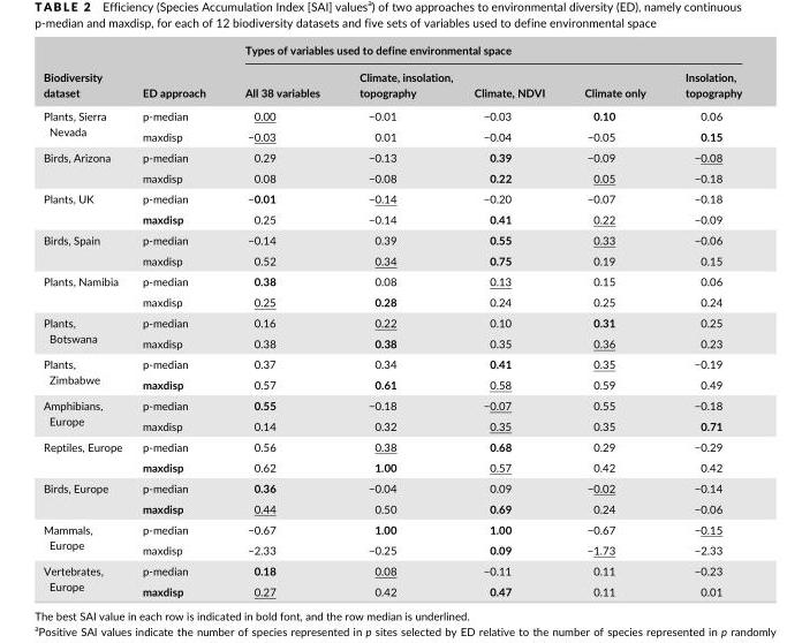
<table><thead><tr><td rowspan="2">Biodiversity dataset</td><td rowspan="2">ED approach</td><td colspan="5">Types of variables used to define environmental space</td></tr><tr><td>All 38 variables</td><td>Climate, insolation, topography</td><td>Climate, NDVI</td><td>Climate only</td><td>Insolation, topography</td></tr></thead><tbody><tr><td rowspan="2">Plants, Sierra Nevada</td><td>p- median</td><td>0.00</td><td>−0.01</td><td>−0.03</td><td>0.10</td><td>0.06</td></tr><tr><td>maxdisp</td><td>−0.03</td><td>0.01</td><td>−0.04</td><td>−0.05</td><td>0.15</td></tr><tr><td rowspan="2">Birds, Arizona</td><td>p- median</td><td>0.29</td><td>−0.13</td><td>0.39</td><td>−0.09</td><td>−0.08</td></tr><tr><td>maxdisp</td><td>0.08</td><td>−0.08</td><td>0.22</td><td>0.05</td><td>−0.18</td></tr><tr><td rowspan="2">Plants, UK</td><td>p- median</td><td>−0.01</td><td>−0.14</td><td>−0.20</td><td>−0.07</td><td>−0.18</td></tr><tr><td>maxdisp</td><td>0.25</td><td>−0.14</td><td>0.41</td><td>0.22</td><td>−0.09</td></tr><tr><td rowspan="2">Birds, Spain</td><td>p- median</td><td>−0.14</td><td>0.39</td><td>0.55</td><td>0.33</td><td>−0.06</td></tr><tr><td>maxdisp</td><td>0.52</td><td>0.34</td><td>0.75</td><td>0.19</td><td>0.15</td></tr><tr><td rowspan="2">Plants, Namibia</td><td>p- median</td><td>0.38</td><td>0.08</td><td>0.13</td><td>0.15</td><td>0.06</td></tr><tr><td>maxdisp</td><td>0.25</td><td>0.28</td><td>0.24</td><td>0.25</td><td>0.24</td></tr><tr><td rowspan="2">Plants, Botswana</td><td>p- median</td><td>0.16</td><td>0.22</td><td>0.10</td><td>0.31</td><td>0.25</td></tr><tr><td>maxdisp</td><td>0.38</td><td>0.38</td><td>0.35</td><td>0.36</td><td>0.23</td></tr><tr><td rowspan="2">Plants, Zimbabwe</td><td>p- median</td><td>0.37</td><td>0.34</td><td>0.41</td><td>0.35</td><td>−0.19</td></tr><tr><td>maxdisp</td><td>0.57</td><td>0.61</td><td>0.58</td><td>0.59</td><td>0.49</td></tr><tr><td rowspan="2">Amphibians, Europe</td><td>p- median</td><td>0.55</td><td>−0.18</td><td>−0.07</td><td>0.55</td><td>−0.18</td></tr><tr><td>maxdisp</td><td>0.14</td><td>0.32</td><td>0.35</td><td>0.35</td><td>0.71</td></tr><tr><td rowspan="2">Reptiles, Europe</td><td>p- median</td><td>0.56</td><td>0.38</td><td>0.68</td><td>0.29</td><td>−0.29</td></tr><tr><td>maxdisp</td><td>0.62</td><td>1.00</td><td>0.57</td><td>0.42</td><td>0.42</td></tr><tr><td rowspan="2">Birds, Europe</td><td>p- median</td><td>0.36</td><td>−0.04</td><td>0.09</td><td>−0.02</td><td>−0.14</td></tr><tr><td>maxdisp</td><td>0.44</td><td>0.50</td><td>0.69</td><td>0.24</td><td>−0.06</td></tr><tr><td rowspan="2">Mammals, Europe</td><td>p- median</td><td>−0.67</td><td>1.00</td><td>1.00</td><td>−0.67</td><td>−0.15</td></tr><tr><td>maxdisp</td><td>−2.33</td><td>−0.25</td><td>0.09</td><td>−1.73</td><td>−2.33</td></tr><tr><td rowspan="2">Vertebrates, Europe</td><td>p- median</td><td>0.18</td><td>0.08</td><td>−0.11</td><td>0.11</td><td>−0.23</td></tr><tr><td>maxdisp</td><td>0.27</td><td>0.42</td><td>0.47</td><td>0.11</td><td>0.01</td></tr></tbody></table>